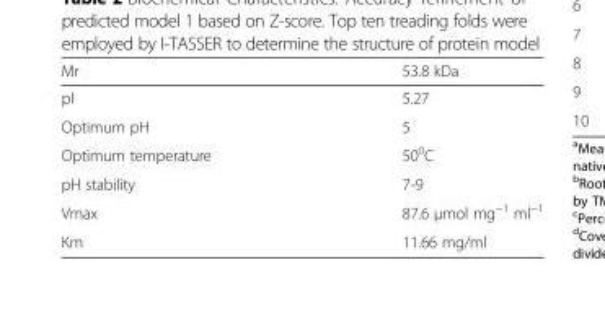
<table><thead><tr><td>Mr</td><td>53.8 kDa</td></tr></thead><tbody><tr><td>pI</td><td>5.27</td></tr><tr><td>Optimum pH</td><td>5</td></tr><tr><td>Optimum temperature</td><td>50<sup>0</sup>C</td></tr><tr><td>pH stability</td><td>7-9</td></tr><tr><td>Vmax</td><td>87.6 μmol mg<sup>−1</sup> ml<sup>−1</sup></td></tr><tr><td>Km</td><td>11.66 mg/ml</td></tr></tbody></table>